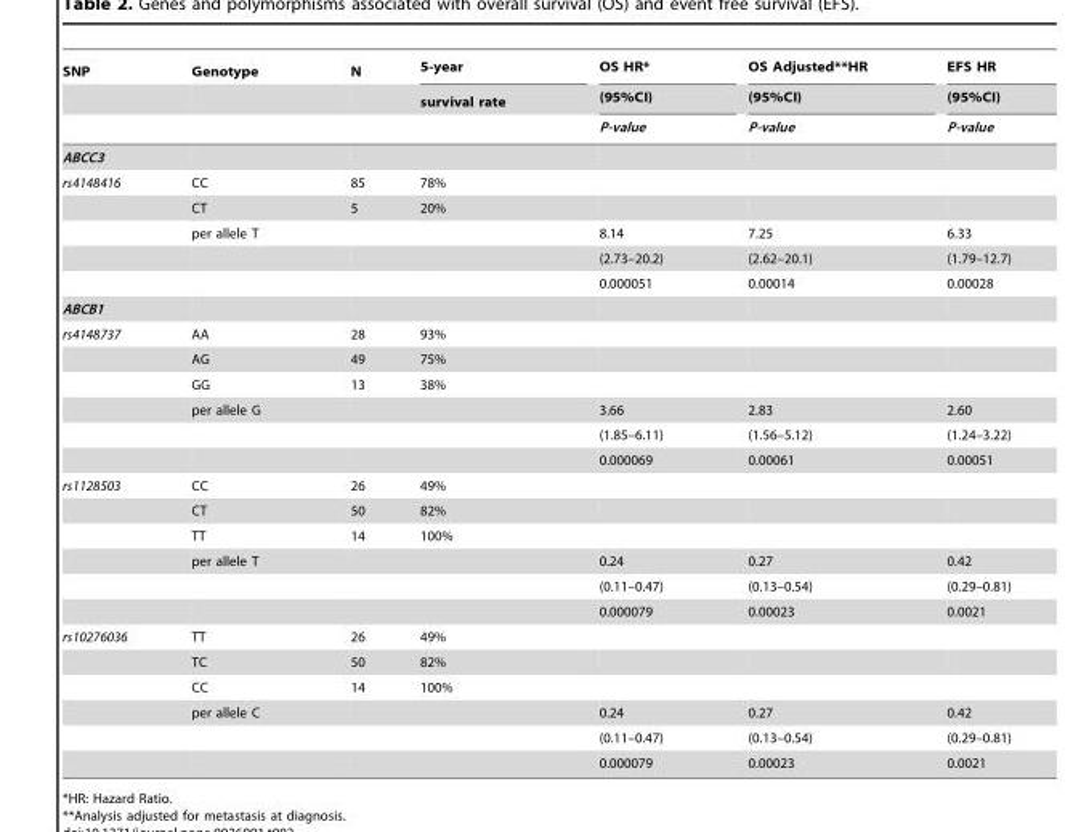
<table><thead><tr><td rowspan="3">SNP</td><td rowspan="3">Genotype</td><td rowspan="3">N</td><td rowspan="3">5-year survival rate</td><td rowspan="3">OS HR* (95%CI) P-value</td><td rowspan="3">OS Adjusted**HR (95%CI) P-value</td><td rowspan="3">EFS HR (95%CI) P-value</td></tr><tr></tr><tr></tr></thead><tbody><tr><td colspan="7">ABCC3</td></tr><tr><td rowspan="5">rs4148416</td><td>CC</td><td>85</td><td>78%</td><td></td><td></td><td></td></tr><tr><td>CT</td><td>5</td><td>20%</td><td></td><td></td><td></td></tr><tr><td>per allele T</td><td></td><td></td><td>8.14</td><td>7.25</td><td>6.33</td></tr><tr><td></td><td></td><td></td><td>(2.73–20.2)</td><td>(2.62–20.1)</td><td>(1.79–12.7)</td></tr><tr><td></td><td></td><td></td><td>0.000051</td><td>0.00014</td><td>0.00028</td></tr><tr><td colspan="7">ABCB1</td></tr><tr><td rowspan="6">rs4148737</td><td>AA</td><td>28</td><td>93%</td><td></td><td></td><td></td></tr><tr><td>AG</td><td>49</td><td>75%</td><td></td><td></td><td></td></tr><tr><td>GG</td><td>13</td><td>38%</td><td></td><td></td><td></td></tr><tr><td>per allele G</td><td></td><td></td><td>3.66</td><td>2.83</td><td>2.60</td></tr><tr><td></td><td></td><td></td><td>(1.85–6.11)</td><td>(1.56–5.12)</td><td>(1.24–3.22)</td></tr><tr><td></td><td></td><td></td><td>0.000069</td><td>0.00061</td><td>0.00051</td></tr><tr><td rowspan="6">rs1128503</td><td>CC</td><td>26</td><td>49%</td><td></td><td></td><td></td></tr><tr><td>CT</td><td>50</td><td>82%</td><td></td><td></td><td></td></tr><tr><td>TT</td><td>14</td><td>100%</td><td></td><td></td><td></td></tr><tr><td>per allele T</td><td></td><td></td><td>0.24</td><td>0.27</td><td>0.42</td></tr><tr><td></td><td></td><td></td><td>(0.11–0.47)</td><td>(0.13–0.54)</td><td>(0.29–0.81)</td></tr><tr><td></td><td></td><td></td><td>0.000079</td><td>0.00023</td><td>0.0021</td></tr><tr><td rowspan="6">rs10276036</td><td>TT</td><td>26</td><td>49%</td><td></td><td></td><td></td></tr><tr><td>TC</td><td>50</td><td>82%</td><td></td><td></td><td></td></tr><tr><td>CC</td><td>14</td><td>100%</td><td></td><td></td><td></td></tr><tr><td>per allele C</td><td></td><td></td><td>0.24</td><td>0.27</td><td>0.42</td></tr><tr><td></td><td></td><td></td><td>(0.11–0.47)</td><td>(0.13–0.54)</td><td>(0.29–0.81)</td></tr><tr><td></td><td></td><td></td><td>0.000079</td><td>0.00023</td><td>0.0021</td></tr></tbody></table>